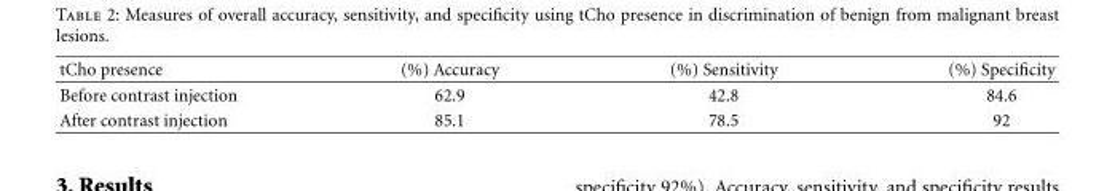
<table><thead><tr><td>tCho presence</td><td>(%) Accuracy</td><td>(%) Sensitivity</td><td>(%) Specificity</td></tr></thead><tbody><tr><td>Before contrast injection</td><td>62.9</td><td>42.8</td><td>84.6</td></tr><tr><td>After contrast injection</td><td>85.1</td><td>78.5</td><td>92</td></tr></tbody></table>